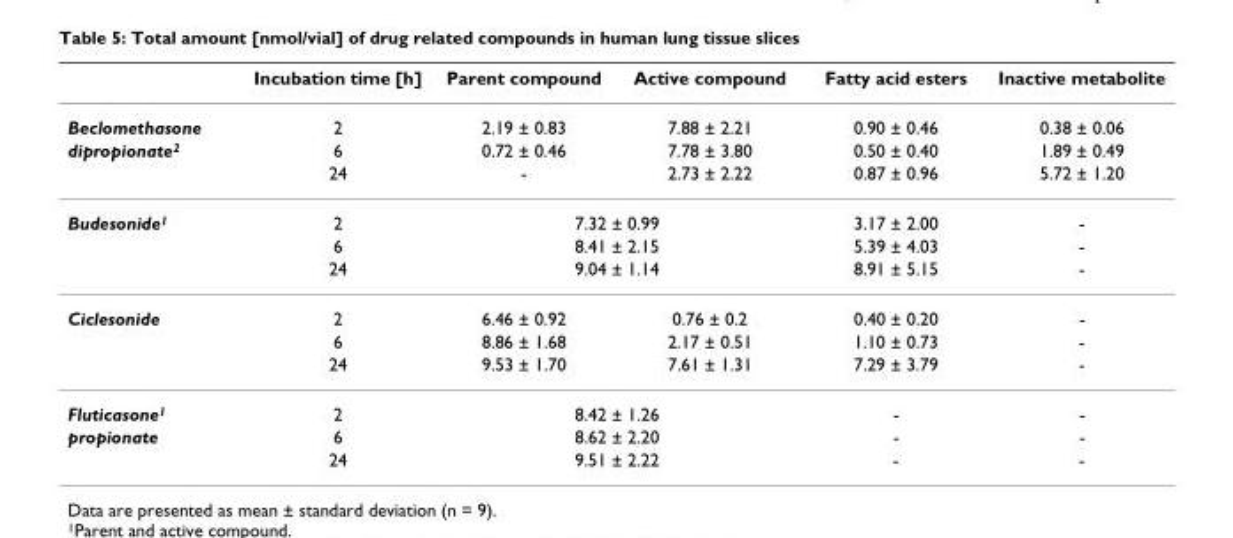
<table><thead><tr><td></td><td>Incubation time [h]</td><td>Parent compound</td><td>Active compound</td><td>Fatty acid esters</td><td>Inactive metabolite</td></tr></thead><tbody><tr><td>Beclomethasone</td><td>2</td><td>2.19 ± 0.83</td><td>7.88 ± 2.21</td><td>0.90 ± 0.46</td><td>0.38 ± 0.06</td></tr><tr><td rowspan="2">dipropionate<sup>2</sup></td><td>6</td><td>0.72 ± 0.46</td><td>7.78 ± 3.80</td><td>0.50 ± 0.40</td><td>1.89 ± 0.49</td></tr><tr><td>24</td><td>-</td><td>2.73 ± 2.22</td><td>0.87 ± 0.96</td><td>5.72 ± 1.20</td></tr><tr><td rowspan="3">Budesonide<sup>1</sup></td><td>2</td><td colspan="2">7.32 ± 0.99</td><td>3.17 ± 2.00</td><td>-</td></tr><tr><td>6</td><td colspan="2">8.41 ± 2.15</td><td>5.39 ± 4.03</td><td>-</td></tr><tr><td>24</td><td colspan="2">9.04 ± 1.14</td><td>8.91 ± 5.15</td><td>-</td></tr><tr><td rowspan="3">Ciclesonide</td><td>2</td><td>6.46 ± 0.92</td><td>0.76 ± 0.2</td><td>0.40 ± 0.20</td><td>-</td></tr><tr><td>6</td><td>8.86 ± 1.68</td><td>2.17 ± 0.51</td><td>1.10 ± 0.73</td><td>-</td></tr><tr><td>24</td><td>9.53 ± 1.70</td><td>7.61 ± 1.31</td><td>7.29 ± 3.79</td><td>-</td></tr><tr><td>Fluticasone<sup>1</sup></td><td>2</td><td colspan="2">8.42 ± 1.26</td><td>-</td><td>-</td></tr><tr><td rowspan="2">propionate</td><td>6</td><td colspan="2">8.62 ± 2.20</td><td>-</td><td>-</td></tr><tr><td>24</td><td colspan="2">9.51 ± 2.22</td><td>-</td><td>-</td></tr></tbody></table>